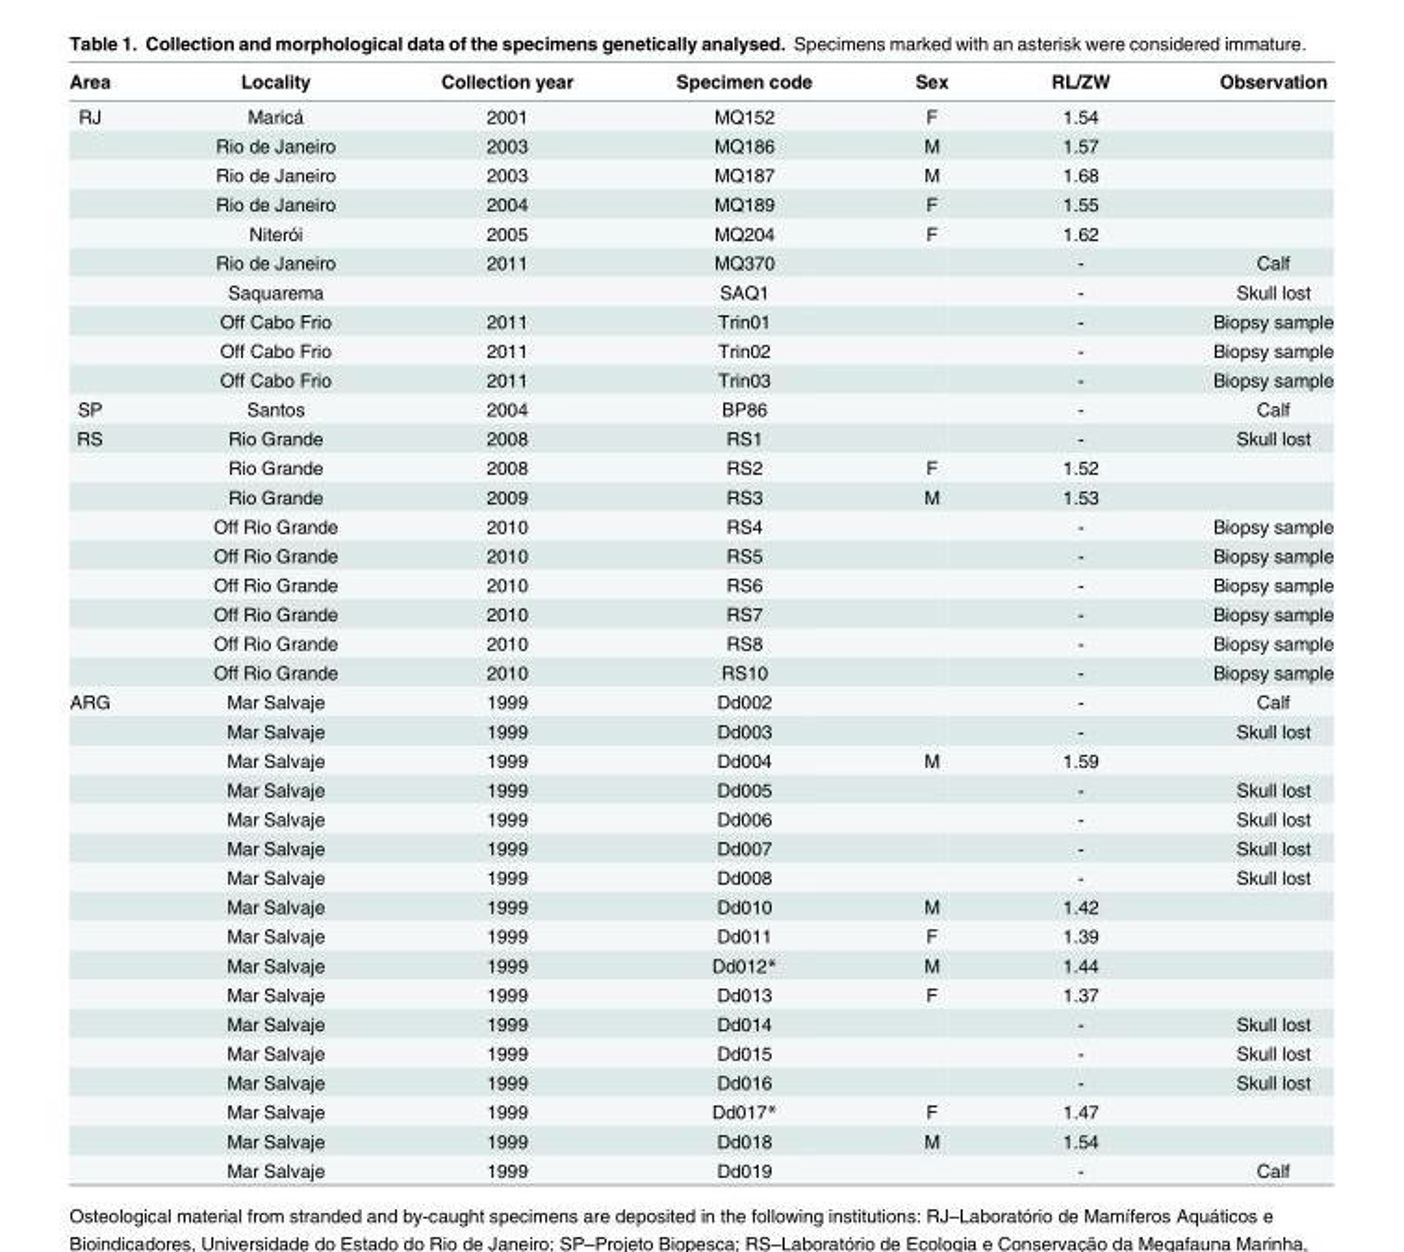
<table><thead><tr><td>Area</td><td>Locality</td><td>Collection year</td><td>Specimen code</td><td>Sex</td><td>RL/ZW</td><td>Observation</td></tr></thead><tbody><tr><td rowspan="10">RJ</td><td>Maricá</td><td>2001</td><td>MQ152</td><td>F</td><td>1.54</td><td></td></tr><tr><td>Rio de Janeiro</td><td>2003</td><td>MQ186</td><td>M</td><td>1.57</td><td></td></tr><tr><td>Rio de Janeiro</td><td>2003</td><td>MQ187</td><td>M</td><td>1.68</td><td></td></tr><tr><td>Rio de Janeiro</td><td>2004</td><td>MQ189</td><td>F</td><td>1.55</td><td></td></tr><tr><td>Niterói</td><td>2005</td><td>MQ204</td><td>F</td><td>1.62</td><td></td></tr><tr><td>Rio de Janeiro</td><td>2011</td><td>MQ370</td><td></td><td>-</td><td>Calf</td></tr><tr><td>Saquarema</td><td></td><td>SAQ1</td><td></td><td>-</td><td>Skull lost</td></tr><tr><td>Off Cabo Frio</td><td>2011</td><td>Trin01</td><td></td><td>-</td><td>Biopsy sample</td></tr><tr><td>Off Cabo Frio</td><td>2011</td><td>Trin02</td><td></td><td>-</td><td>Biopsy sample</td></tr><tr><td>Off Cabo Frio</td><td>2011</td><td>Trin03</td><td></td><td>-</td><td>Biopsy sample</td></tr><tr><td>SP</td><td>Santos</td><td>2004</td><td>BP86</td><td></td><td>-</td><td>Calf</td></tr><tr><td rowspan="9">RS</td><td>Rio Grande</td><td>2008</td><td>RS1</td><td></td><td>-</td><td>Skull lost</td></tr><tr><td>Rio Grande</td><td>2008</td><td>RS2</td><td>F</td><td>1.52</td><td></td></tr><tr><td>Rio Grande</td><td>2009</td><td>RS3</td><td>M</td><td>1.53</td><td></td></tr><tr><td>Off Rio Grande</td><td>2010</td><td>RS4</td><td></td><td>-</td><td>Biopsy sample</td></tr><tr><td>Off Rio Grande</td><td>2010</td><td>RS5</td><td></td><td>-</td><td>Biopsy sample</td></tr><tr><td>Off Rio Grande</td><td>2010</td><td>RS6</td><td></td><td>-</td><td>Biopsy sample</td></tr><tr><td>Off Rio Grande</td><td>2010</td><td>RS7</td><td></td><td>-</td><td>Biopsy sample</td></tr><tr><td>Off Rio Grande</td><td>2010</td><td>RS8</td><td></td><td>-</td><td>Biopsy sample</td></tr><tr><td>Off Rio Grande</td><td>2010</td><td>RS10</td><td></td><td>-</td><td>Biopsy sample</td></tr><tr><td rowspan="17">ARG</td><td>Mar Salvaje</td><td>1999</td><td>Dd002</td><td></td><td>-</td><td>Calf</td></tr><tr><td>Mar Salvaje</td><td>1999</td><td>Dd003</td><td></td><td>-</td><td>Skull lost</td></tr><tr><td>Mar Salvaje</td><td>1999</td><td>Dd004</td><td>M</td><td>1.59</td><td></td></tr><tr><td>Mar Salvaje</td><td>1999</td><td>Dd005</td><td></td><td>-</td><td>Skull lost</td></tr><tr><td>Mar Salvaje</td><td>1999</td><td>Dd006</td><td></td><td>-</td><td>Skull lost</td></tr><tr><td>Mar Salvaje</td><td>1999</td><td>Dd007</td><td></td><td>-</td><td>Skull lost</td></tr><tr><td>Mar Salvaje</td><td>1999</td><td>Dd008</td><td></td><td>-</td><td>Skull lost</td></tr><tr><td>Mar Salvaje</td><td>1999</td><td>Dd010</td><td>M</td><td>1.42</td><td></td></tr><tr><td>Mar Salvaje</td><td>1999</td><td>Dd011</td><td>F</td><td>1.39</td><td></td></tr><tr><td>Mar Salvaje</td><td>1999</td><td>Dd012*</td><td>M</td><td>1.44</td><td></td></tr><tr><td>Mar Salvaje</td><td>1999</td><td>Dd013</td><td>F</td><td>1.37</td><td></td></tr><tr><td>Mar Salvaje</td><td>1999</td><td>Dd014</td><td></td><td>-</td><td>Skull lost</td></tr><tr><td>Mar Salvaje</td><td>1999</td><td>Dd015</td><td></td><td>-</td><td>Skull lost</td></tr><tr><td>Mar Salvaje</td><td>1999</td><td>Dd016</td><td></td><td>-</td><td>Skull lost</td></tr><tr><td>Mar Salvaje</td><td>1999</td><td>Dd017*</td><td>F</td><td>1.47</td><td></td></tr><tr><td>Mar Salvaje</td><td>1999</td><td>Dd018</td><td>M</td><td>1.54</td><td></td></tr><tr><td>Mar Salvaje</td><td>1999</td><td>Dd019</td><td></td><td>-</td><td>Calf</td></tr></tbody></table>